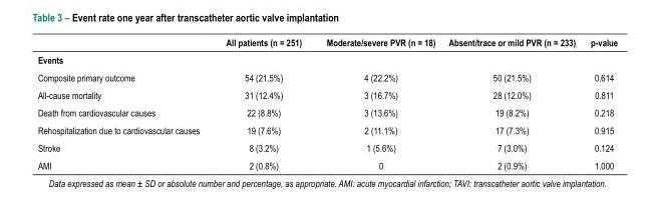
<table><thead><tr><td></td><td>All patients (n = 251)</td><td>Moderate/severe PVR (n = 18)</td><td>Absent/trace or mild PVR (n = 233)</td><td>p-value</td></tr></thead><tbody><tr><td colspan="5">Events</td></tr><tr><td>Composite primary outcome</td><td>54 (21.5%)</td><td>4 (22.2%)</td><td>50 (21.5%)</td><td>0.614</td></tr><tr><td>All-cause mortality</td><td>31 (12.4%)</td><td>3 (16.7%)</td><td>28 (12.0%)</td><td>0.811</td></tr><tr><td>Death from cardiovascular causes</td><td>22 (8.8%)</td><td>3 (13.6%)</td><td>19 (8.2%)</td><td>0.218</td></tr><tr><td>Rehospitalization due to cardiovascular causes</td><td>19 (7.6%)</td><td>2 (11.1%)</td><td>17 (7.3%)</td><td>0.915</td></tr><tr><td>Stroke</td><td>8 (3.2%)</td><td>1 (5.6%)</td><td>7 (3.0%)</td><td>0.124</td></tr><tr><td>AMI</td><td>2 (0.8%)</td><td>0</td><td>2 (0.9%)</td><td>1.000</td></tr></tbody></table>